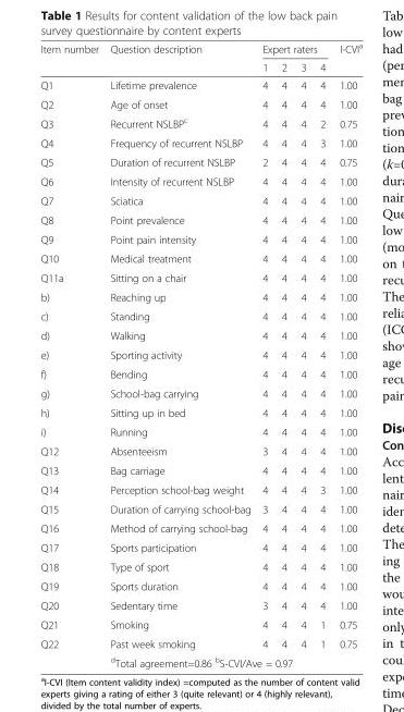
<table><thead><tr><td rowspan="2">Item number</td><td rowspan="2">Question description</td><td colspan="4">Expert raters</td><td rowspan="2">I-CVI<sup>a</sup></td></tr><tr><td>1</td><td>2</td><td>3</td><td>4</td></tr></thead><tbody><tr><td>Q1</td><td>Lifetime prevalence</td><td>4</td><td>4</td><td>4</td><td>4</td><td>1.00</td></tr><tr><td>Q2</td><td>Age of onset</td><td>4</td><td>4</td><td>4</td><td>4</td><td>1.00</td></tr><tr><td>Q3</td><td>Recurrent NSLBP<sup>c</sup></td><td>4</td><td>4</td><td>4</td><td>2</td><td>0.75</td></tr><tr><td>Q4</td><td>Frequency of recurrent NSLBP</td><td>4</td><td>4</td><td>4</td><td>3</td><td>1.00</td></tr><tr><td>Q5</td><td>Duration of recurrent NSLBP</td><td>2</td><td>4</td><td>4</td><td>4</td><td>0.75</td></tr><tr><td>Q6</td><td>Intensity of recurrent NSLBP</td><td>4</td><td>4</td><td>4</td><td>4</td><td>1.00</td></tr><tr><td>Q7</td><td>Sciatica</td><td>4</td><td>4</td><td>4</td><td>4</td><td>1.00</td></tr><tr><td>Q8</td><td>Point prevalence</td><td>4</td><td>4</td><td>4</td><td>4</td><td>1.00</td></tr><tr><td>Q9</td><td>Point pain intensity</td><td>4</td><td>4</td><td>4</td><td>4</td><td>1.00</td></tr><tr><td>Q10</td><td>Medical treatment</td><td>4</td><td>4</td><td>4</td><td>4</td><td>1.00</td></tr><tr><td>Q11a</td><td>Sitting on a chair</td><td>4</td><td>4</td><td>4</td><td>4</td><td>1.00</td></tr><tr><td>b)</td><td>Reaching up</td><td>4</td><td>4</td><td>4</td><td>4</td><td>1.00</td></tr><tr><td>c)</td><td>Standing</td><td>4</td><td>4</td><td>4</td><td>4</td><td>1.00</td></tr><tr><td>d)</td><td>Walking</td><td>4</td><td>4</td><td>4</td><td>4</td><td>1.00</td></tr><tr><td>e)</td><td>Sporting activity</td><td>4</td><td>4</td><td>4</td><td>4</td><td>1.00</td></tr><tr><td>f)</td><td>Bending</td><td>4</td><td>4</td><td>4</td><td>4</td><td>1.00</td></tr><tr><td>g)</td><td>School-bag carrying</td><td>4</td><td>4</td><td>4</td><td>4</td><td>1.00</td></tr><tr><td>h)</td><td>Sitting up in bed</td><td>4</td><td>4</td><td>4</td><td>4</td><td>1.00</td></tr><tr><td>i)</td><td>Running</td><td>4</td><td>4</td><td>4</td><td>4</td><td>1.00</td></tr><tr><td>Q12</td><td>Absenteeism</td><td>3</td><td>4</td><td>4</td><td>4</td><td>1.00</td></tr><tr><td>Q13</td><td>Bag carriage</td><td>4</td><td>4</td><td>4</td><td>4</td><td>1.00</td></tr><tr><td>Q14</td><td>Perception school-bag weight</td><td>4</td><td>4</td><td>4</td><td>3</td><td>1.00</td></tr><tr><td>Q15</td><td>Duration of carrying school-bag</td><td>3</td><td>4</td><td>4</td><td>4</td><td>1.00</td></tr><tr><td>Q16</td><td>Method of carrying school-bag</td><td>4</td><td>4</td><td>4</td><td>4</td><td>1.00</td></tr><tr><td>Q17</td><td>Sports participation</td><td>4</td><td>4</td><td>4</td><td>4</td><td>1.00</td></tr><tr><td>Q18</td><td>Type of sport</td><td>4</td><td>4</td><td>4</td><td>4</td><td>1.00</td></tr><tr><td>Q19</td><td>Sports duration</td><td>4</td><td>4</td><td>4</td><td>4</td><td>1.00</td></tr><tr><td>Q20</td><td>Sedentary time</td><td>3</td><td>4</td><td>4</td><td>4</td><td>1.00</td></tr><tr><td>Q21</td><td>Smoking</td><td>4</td><td>4</td><td>4</td><td>1</td><td>0.75</td></tr><tr><td rowspan="2">Q22</td><td>Past week smoking</td><td>4</td><td>4</td><td>4</td><td>1</td><td>0.75</td></tr><tr><td colspan="6"><sup>d</sup>Total agreement=0.86 <sup>b</sup>S-CVI/Ave = 0.97</td></tr></tbody></table>